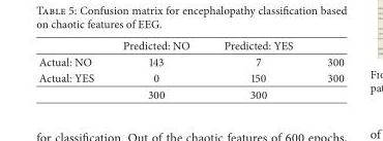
<table><thead><tr><td></td><td>Predicted: NO</td><td>Predicted: YES</td><td></td></tr></thead><tbody><tr><td>Actual: NO</td><td>143</td><td>7</td><td>300</td></tr><tr><td rowspan="2">Actual: YES</td><td>0</td><td>150</td><td>300</td></tr><tr><td>300</td><td>300</td><td></td></tr></tbody></table>